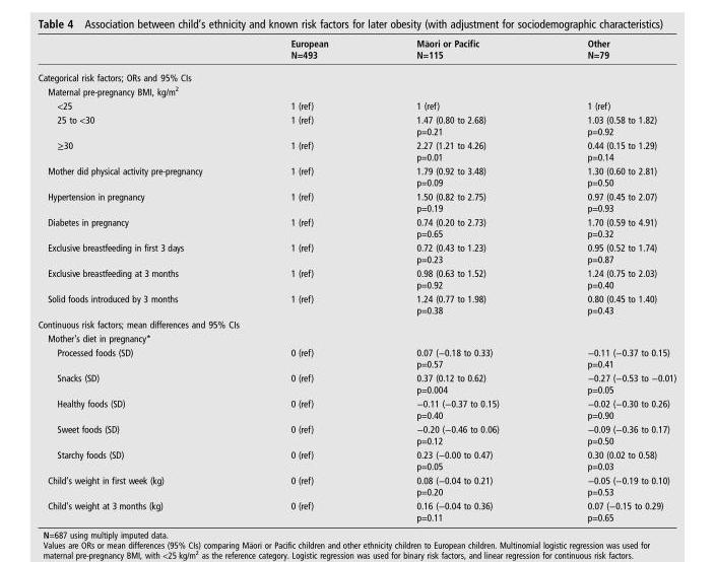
<table><thead><tr><td></td><td>European N=493</td><td>M�aori or Pacific N=115</td><td>Other N=79</td></tr></thead><tbody><tr><td colspan="4">Categorical risk factors; ORs and 95% CIs</td></tr><tr><td colspan="4">Maternal pre-pregnancy BMI, kg/m<sup>2</sup></td></tr><tr><td>&lt;25</td><td>1 (ref)</td><td>1 (ref)</td><td>1 (ref)</td></tr><tr><td>25 to &lt;30</td><td>1 (ref)</td><td>1.47 (0.80 to 2.68) p=0.21</td><td>1.03 (0.58 to 1.82) p=0.92</td></tr><tr><td>≥30</td><td>1 (ref)</td><td>2.27 (1.21 to 4.26) p=0.01</td><td>0.44 (0.15 to 1.29) p=0.14</td></tr><tr><td>Mother did physical activity pre-pregnancy</td><td>1 (ref)</td><td>1.79 (0.92 to 3.48) p=0.09</td><td>1.30 (0.60 to 2.81) p=0.50</td></tr><tr><td>Hypertension in pregnancy</td><td>1 (ref)</td><td>1.50 (0.82 to 2.75) p=0.19</td><td>0.97 (0.45 to 2.07) p=0.93</td></tr><tr><td>Diabetes in pregnancy</td><td>1 (ref)</td><td>0.74 (0.20 to 2.73) p=0.65</td><td>1.70 (0.59 to 4.91) p=0.32</td></tr><tr><td>Exclusive breastfeeding in first 3 days</td><td>1 (ref)</td><td>0.72 (0.43 to 1.23) p=0.23</td><td>0.95 (0.52 to 1.74) p=0.87</td></tr><tr><td>Exclusive breastfeeding at 3 months</td><td>1 (ref)</td><td>0.98 (0.63 to 1.52) p=0.92</td><td>1.24 (0.75 to 2.03) p=0.40</td></tr><tr><td>Solid foods introduced by 3 months</td><td>1 (ref)</td><td>1.24 (0.77 to 1.98) p=0.38</td><td>0.80 (0.45 to 1.40) p=0.43</td></tr><tr><td colspan="4">Continuous risk factors; mean differences and 95% CIs</td></tr><tr><td colspan="4">Mother’s diet in pregnancy*</td></tr><tr><td>Processed foods (SD)</td><td>0 (ref)</td><td>0.07 (−0.18 to 0.33) p=0.57</td><td>−0.11 (−0.37 to 0.15) p=0.41</td></tr><tr><td>Snacks (SD)</td><td>0 (ref)</td><td>0.37 (0.12 to 0.62) p=0.004</td><td>−0.27 (−0.53 to −0.01) p=0.05</td></tr><tr><td>Healthy foods (SD)</td><td>0 (ref)</td><td>−0.11 (−0.37 to 0.15) p=0.40</td><td>−0.02 (−0.30 to 0.26) p=0.90</td></tr><tr><td>Sweet foods (SD)</td><td>0 (ref)</td><td>−0.20 (−0.46 to 0.06) p=0.12</td><td>−0.09 (−0.36 to 0.17) p=0.50</td></tr><tr><td>Starchy foods (SD)</td><td>0 (ref)</td><td>0.23 (−0.00 to 0.47) p=0.05</td><td>0.30 (0.02 to 0.58) p=0.03</td></tr><tr><td>Child’s weight in first week (kg)</td><td>0 (ref)</td><td>0.08 (−0.04 to 0.21) p=0.20</td><td>−0.05 (−0.19 to 0.10) p=0.53</td></tr><tr><td>Child’s weight at 3 months (kg)</td><td>0 (ref)</td><td>0.16 (−0.04 to 0.36) p=0.11</td><td>0.07 (−0.15 to 0.29) p=0.65</td></tr></tbody></table>